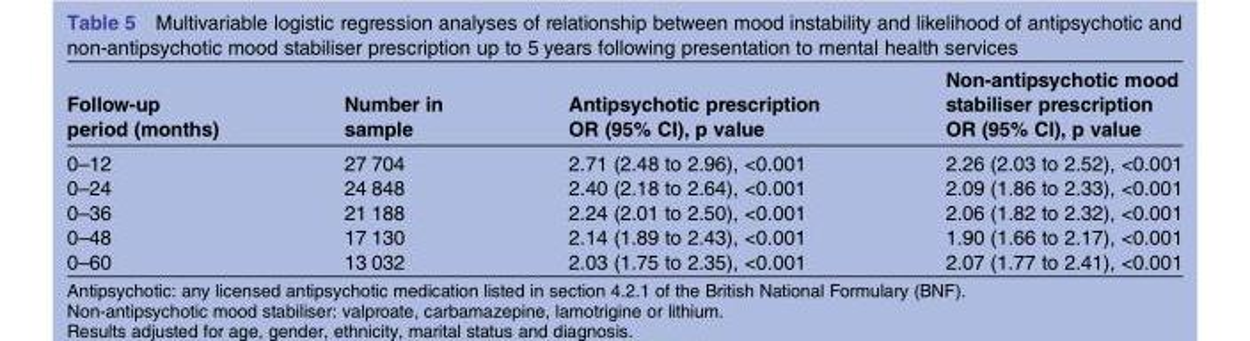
<table><thead><tr><td>Follow-up period (months)</td><td>Number in sample</td><td>Antipsychotic prescription OR (95% CI), p value</td><td>Non-antipsychotic mood stabiliser prescription OR (95% CI), p value</td></tr></thead><tbody><tr><td>0–12</td><td>27 704</td><td>2.71 (2.48 to 2.96), &lt;0.001</td><td>2.26 (2.03 to 2.52), &lt;0.001</td></tr><tr><td>0–24</td><td>24 848</td><td>2.40 (2.18 to 2.64), &lt;0.001</td><td>2.09 (1.86 to 2.33), &lt;0.001</td></tr><tr><td>0–36</td><td>21 188</td><td>2.24 (2.01 to 2.50), &lt;0.001</td><td>2.06 (1.82 to 2.32), &lt;0.001</td></tr><tr><td>0–48</td><td>17 130</td><td>2.14 (1.89 to 2.43), &lt;0.001</td><td>1.90 (1.66 to 2.17), &lt;0.001</td></tr><tr><td>0–60</td><td>13 032</td><td>2.03 (1.75 to 2.35), &lt;0.001</td><td>2.07 (1.77 to 2.41), &lt;0.001</td></tr></tbody></table>